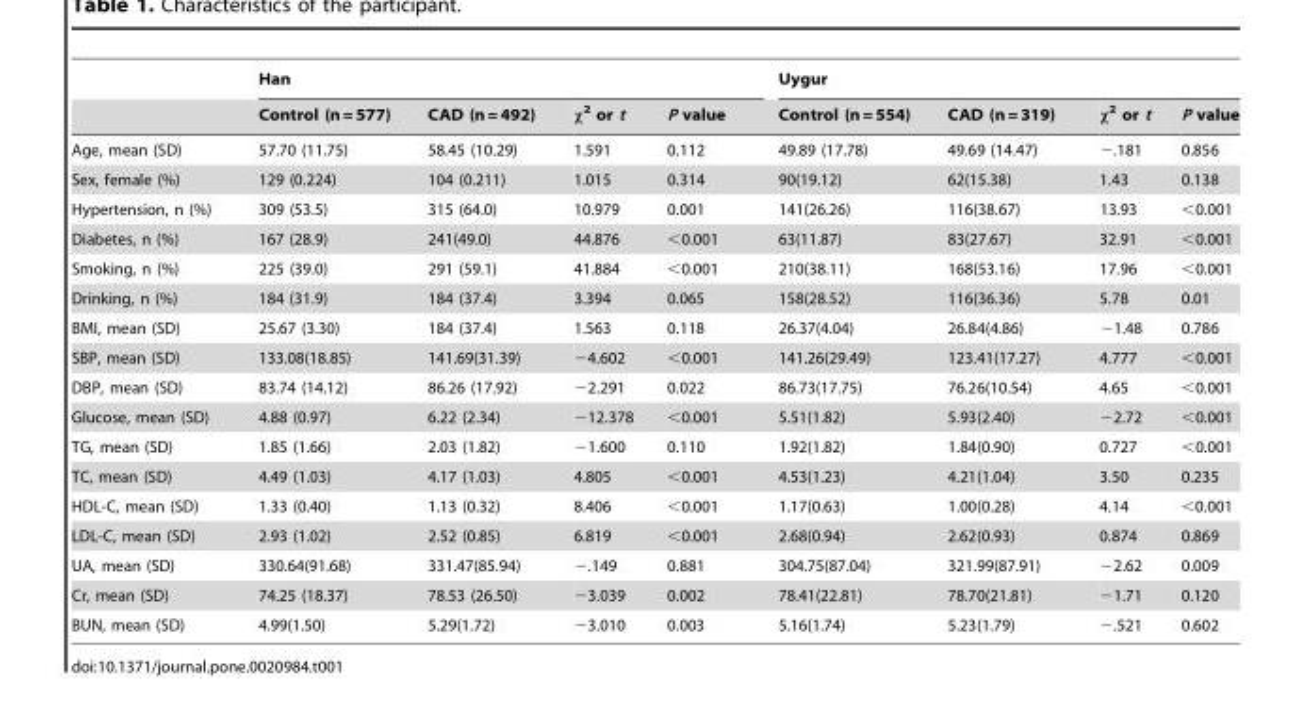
<table><thead><tr><td rowspan="2"></td><td colspan="4">Han</td><td colspan="4">Uygur</td></tr><tr><td>Control (n = 577)</td><td>CAD (n = 492)</td><td>χ<sup>2</sup> or t</td><td>P value</td><td>Control (n = 554)</td><td>CAD (n = 319)</td><td>χ<sup>2</sup> or t</td><td>P value</td></tr></thead><tbody><tr><td>Age, mean (SD)</td><td>57.70 (11.75)</td><td>58.45 (10.29)</td><td>1.591</td><td>0.112</td><td>49.89 (17.78)</td><td>49.69 (14.47)</td><td>−.181</td><td>0.856</td></tr><tr><td>Sex, female (%)</td><td>129 (0.224)</td><td>104 (0.211)</td><td>1.015</td><td>0.314</td><td>90(19.12)</td><td>62(15.38)</td><td>1.43</td><td>0.138</td></tr><tr><td>Hypertension, n (%)</td><td>309 (53.5)</td><td>315 (64.0)</td><td>10.979</td><td>0.001</td><td>141(26.26)</td><td>116(38.67)</td><td>13.93</td><td>&lt;0.001</td></tr><tr><td>Diabetes, n (%)</td><td>167 (28.9)</td><td>241(49.0)</td><td>44.876</td><td>&lt;0.001</td><td>63(11.87)</td><td>83(27.67)</td><td>32.91</td><td>&lt;0.001</td></tr><tr><td>Smoking, n (%)</td><td>225 (39.0)</td><td>291 (59.1)</td><td>41.884</td><td>&lt;0.001</td><td>210(38.11)</td><td>168(53.16)</td><td>17.96</td><td>&lt;0.001</td></tr><tr><td>Drinking, n (%)</td><td>184 (31.9)</td><td>184 (37.4)</td><td>3.394</td><td>0.065</td><td>158(28.52)</td><td>116(36.36)</td><td>5.78</td><td>0.01</td></tr><tr><td>BMI, mean (SD)</td><td>25.67 (3.30)</td><td>184 (37.4)</td><td>1.563</td><td>0.118</td><td>26.37(4.04)</td><td>26.84(4.86)</td><td>−1.48</td><td>0.786</td></tr><tr><td>SBP, mean (SD)</td><td>133.08(18.85)</td><td>141.69(31.39)</td><td>−4.602</td><td>&lt;0.001</td><td>141.26(29.49)</td><td>123.41(17.27)</td><td>4.777</td><td>&lt;0.001</td></tr><tr><td>DBP, mean (SD)</td><td>83.74 (14.12)</td><td>86.26 (17.92)</td><td>−2.291</td><td>0.022</td><td>86.73(17.75)</td><td>76.26(10.54)</td><td>4.65</td><td>&lt;0.001</td></tr><tr><td>Glucose, mean (SD)</td><td>4.88 (0.97)</td><td>6.22 (2.34)</td><td>−12.378</td><td>&lt;0.001</td><td>5.51(1.82)</td><td>5.93(2.40)</td><td>−2.72</td><td>&lt;0.001</td></tr><tr><td>TG, mean (SD)</td><td>1.85 (1.66)</td><td>2.03 (1.82)</td><td>−1.600</td><td>0.110</td><td>1.92(1.82)</td><td>1.84(0.90)</td><td>0.727</td><td>&lt;0.001</td></tr><tr><td>TC, mean (SD)</td><td>4.49 (1.03)</td><td>4.17 (1.03)</td><td>4.805</td><td>&lt;0.001</td><td>4.53(1.23)</td><td>4.21(1.04)</td><td>3.50</td><td>0.235</td></tr><tr><td>HDL-C, mean (SD)</td><td>1.33 (0.40)</td><td>1.13 (0.32)</td><td>8.406</td><td>&lt;0.001</td><td>1.17(0.63)</td><td>1.00(0.28)</td><td>4.14</td><td>&lt;0.001</td></tr><tr><td>LDL-C, mean (SD)</td><td>2.93 (1.02)</td><td>2.52 (0.85)</td><td>6.819</td><td>&lt;0.001</td><td>2.68(0.94)</td><td>2.62(0.93)</td><td>0.874</td><td>0.869</td></tr><tr><td>UA, mean (SD)</td><td>330.64(91.68)</td><td>331.47(85.94)</td><td>−.149</td><td>0.881</td><td>304.75(87.04)</td><td>321.99(87.91)</td><td>−2.62</td><td>0.009</td></tr><tr><td>Cr, mean (SD)</td><td>74.25 (18.37)</td><td>78.53 (26.50)</td><td>−3.039</td><td>0.002</td><td>78.41(22.81)</td><td>78.70(21.81)</td><td>−1.71</td><td>0.120</td></tr><tr><td>BUN, mean (SD)</td><td>4.99(1.50)</td><td>5.29(1.72)</td><td>−3.010</td><td>0.003</td><td>5.16(1.74)</td><td>5.23(1.79)</td><td>−.521</td><td>0.602</td></tr></tbody></table>